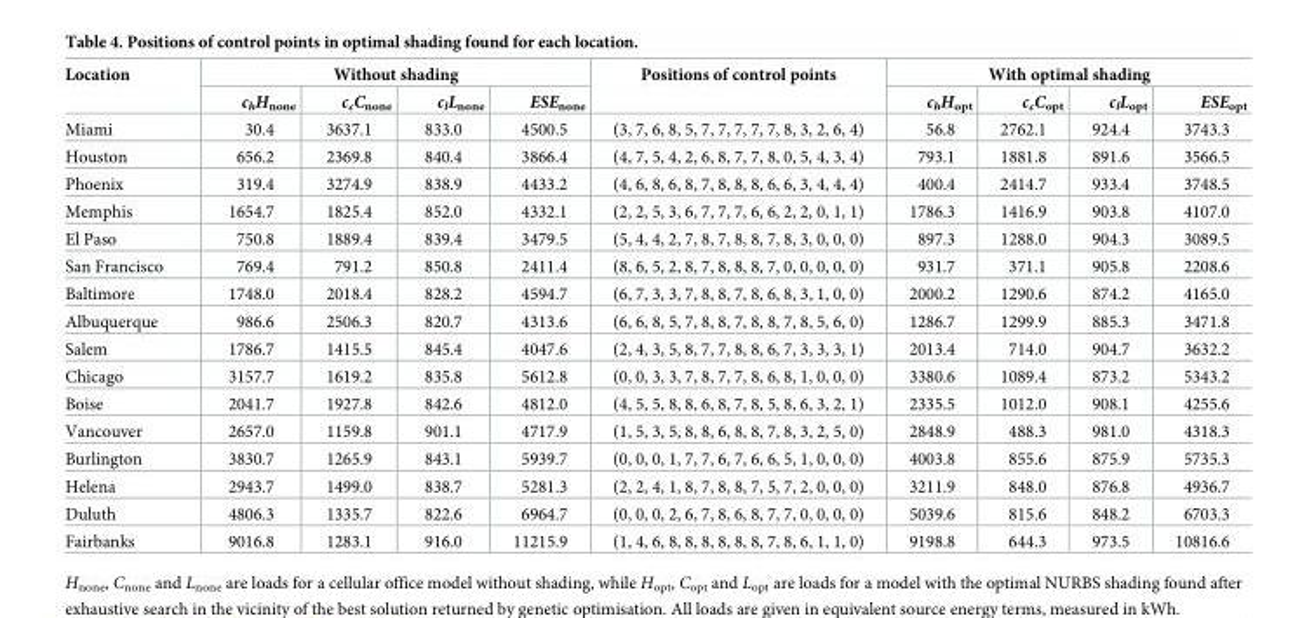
<table><thead><tr><td rowspan="2">Location</td><td colspan="4">Without shading</td><td rowspan="2">Positions of control points</td><td colspan="4">With optimal shading</td></tr><tr><td>c<sub>h</sub>H<sub>none</sub></td><td>c<sub>c</sub>C<sub>none</sub></td><td>c<sub>l</sub>L<sub>none</sub></td><td>ESE<sub>none</sub></td><td>c<sub>h</sub>H<sub>opt</sub></td><td>c<sub>c</sub>C<sub>opt</sub></td><td>c<sub>l</sub>L<sub>opt</sub></td><td>ESE<sub>opt</sub></td></tr></thead><tbody><tr><td>Miami</td><td>30.4</td><td>3637.1</td><td>833.0</td><td>4500.5</td><td>(3, 7, 6, 8, 5, 7, 7, 7, 7, 7, 8, 3, 2, 6, 4)</td><td>56.8</td><td>2762.1</td><td>924.4</td><td>3743.3</td></tr><tr><td>Houston</td><td>656.2</td><td>2369.8</td><td>840.4</td><td>3866.4</td><td>(4, 7, 5, 4, 2, 6, 8, 7, 7, 8, 0, 5, 4, 3, 4)</td><td>793.1</td><td>1881.8</td><td>891.6</td><td>3566.5</td></tr><tr><td>Phoenix</td><td>319.4</td><td>3274.9</td><td>838.9</td><td>4433.2</td><td>(4, 6, 8, 6, 8, 7, 8, 8, 8, 6, 6, 3, 4, 4, 4)</td><td>400.4</td><td>2414.7</td><td>933.4</td><td>3748.5</td></tr><tr><td>Memphis</td><td>1654.7</td><td>1825.4</td><td>852.0</td><td>4332.1</td><td>(2, 2, 5, 3, 6, 7, 7, 7, 6, 6, 2, 2, 0, 1, 1)</td><td>1786.3</td><td>1416.9</td><td>903.8</td><td>4107.0</td></tr><tr><td>El Paso</td><td>750.8</td><td>1889.4</td><td>839.4</td><td>3479.5</td><td>(5, 4, 4, 2, 7, 8, 7, 8, 8, 7, 8, 3, 0, 0, 0)</td><td>897.3</td><td>1288.0</td><td>904.3</td><td>3089.5</td></tr><tr><td>San Francisco</td><td>769.4</td><td>791.2</td><td>850.8</td><td>2411.4</td><td>(8, 6, 5, 2, 8, 7, 8, 8, 8, 7, 0, 0, 0, 0, 0)</td><td>931.7</td><td>371.1</td><td>905.8</td><td>2208.6</td></tr><tr><td>Baltimore</td><td>1748.0</td><td>2018.4</td><td>828.2</td><td>4594.7</td><td>(6, 7, 3, 3, 7, 8, 8, 7, 8, 6, 8, 3, 1, 0, 0)</td><td>2000.2</td><td>1290.6</td><td>874.2</td><td>4165.0</td></tr><tr><td>Albuquerque</td><td>986.6</td><td>2506.3</td><td>820.7</td><td>4313.6</td><td>(6, 6, 8, 5, 7, 8, 8, 7, 8, 8, 7, 8, 5, 6, 0)</td><td>1286.7</td><td>1299.9</td><td>885.3</td><td>3471.8</td></tr><tr><td>Salem</td><td>1786.7</td><td>1415.5</td><td>845.4</td><td>4047.6</td><td>(2, 4, 3, 5, 8, 7, 7, 8, 8, 6, 7, 3, 3, 3, 1)</td><td>2013.4</td><td>714.0</td><td>904.7</td><td>3632.2</td></tr><tr><td>Chicago</td><td>3157.7</td><td>1619.2</td><td>835.8</td><td>5612.8</td><td>(0, 0, 3, 3, 7, 8, 7, 7, 8, 6, 8, 1, 0, 0, 0)</td><td>3380.6</td><td>1089.4</td><td>873.2</td><td>5343.2</td></tr><tr><td>Boise</td><td>2041.7</td><td>1927.8</td><td>842.6</td><td>4812.0</td><td>(4, 5, 5, 8, 8, 6, 8, 7, 8, 5, 8, 6, 3, 2, 1)</td><td>2335.5</td><td>1012.0</td><td>908.1</td><td>4255.6</td></tr><tr><td>Vancouver</td><td>2657.0</td><td>1159.8</td><td>901.1</td><td>4717.9</td><td>(1, 5, 3, 5, 8, 8, 6, 8, 8, 7, 8, 3, 2, 5, 0)</td><td>2848.9</td><td>488.3</td><td>981.0</td><td>4318.3</td></tr><tr><td>Burlington</td><td>3830.7</td><td>1265.9</td><td>843.1</td><td>5939.7</td><td>(0, 0, 0, 1, 7, 7, 6, 7, 6, 6, 5, 1, 0, 0, 0)</td><td>4003.8</td><td>855.6</td><td>875.9</td><td>5735.3</td></tr><tr><td>Helena</td><td>2943.7</td><td>1499.0</td><td>838.7</td><td>5281.3</td><td>(2, 2, 4, 1, 8, 7, 8, 8, 7, 5, 7, 2, 0, 0, 0)</td><td>3211.9</td><td>848.0</td><td>876.8</td><td>4936.7</td></tr><tr><td>Duluth</td><td>4806.3</td><td>1335.7</td><td>822.6</td><td>6964.7</td><td>(0, 0, 0, 2, 6, 7, 8, 6, 8, 7, 7, 0, 0, 0, 0)</td><td>5039.6</td><td>815.6</td><td>848.2</td><td>6703.3</td></tr><tr><td>Fairbanks</td><td>9016.8</td><td>1283.1</td><td>916.0</td><td>11215.9</td><td>(1, 4, 6, 8, 8, 8, 8, 8, 8, 7, 8, 6, 1, 1, 0)</td><td>9198.8</td><td>644.3</td><td>973.5</td><td>10816.6</td></tr></tbody></table>